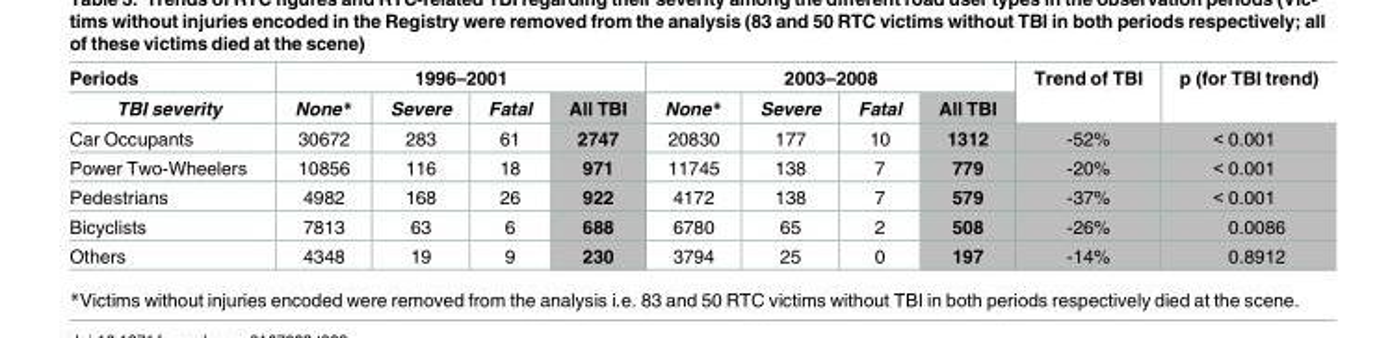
<table><thead><tr><td rowspan="2">Periods TBI severity</td><td colspan="4">1996–2001</td><td colspan="4">2003–2008</td><td rowspan="2">Trend of TBI</td><td rowspan="2">p (for TBI trend)</td></tr><tr><td>None*</td><td>Severe</td><td>Fatal</td><td>All TBI</td><td>None*</td><td>Severe</td><td>Fatal</td><td>All TBI</td></tr></thead><tbody><tr><td>Car Occupants</td><td>30672</td><td>283</td><td>61</td><td>2747</td><td>20830</td><td>177</td><td>10</td><td>1312</td><td>-52%</td><td>&lt; 0.001</td></tr><tr><td>Power Two-Wheelers</td><td>10856</td><td>116</td><td>18</td><td>971</td><td>11745</td><td>138</td><td>7</td><td>779</td><td>-20%</td><td>&lt; 0.001</td></tr><tr><td>Pedestrians</td><td>4982</td><td>168</td><td>26</td><td>922</td><td>4172</td><td>138</td><td>7</td><td>579</td><td>-37%</td><td>&lt; 0.001</td></tr><tr><td>Bicyclists</td><td>7813</td><td>63</td><td>6</td><td>688</td><td>6780</td><td>65</td><td>2</td><td>508</td><td>-26%</td><td>0.0086</td></tr><tr><td>Others</td><td>4348</td><td>19</td><td>9</td><td>230</td><td>3794</td><td>25</td><td>0</td><td>197</td><td>-14%</td><td>0.8912</td></tr></tbody></table>